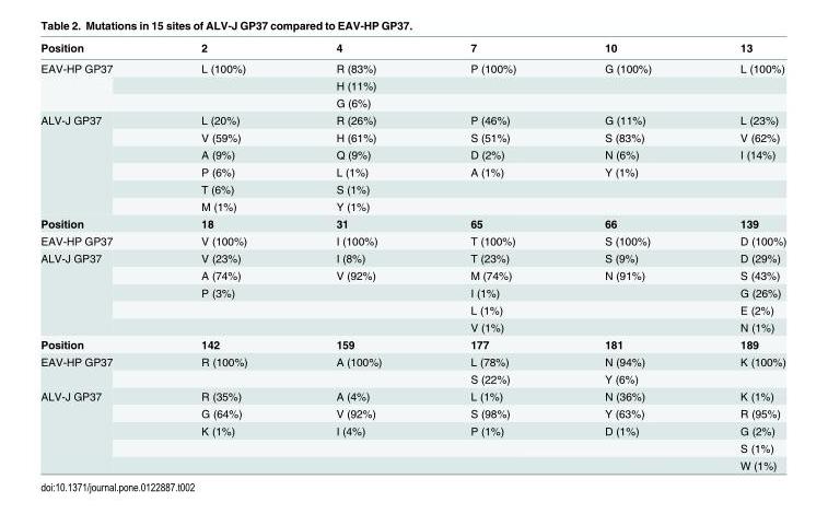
<table><thead><tr><td>Position</td><td>2</td><td>4</td><td>7</td><td>10</td><td>13</td></tr></thead><tbody><tr><td rowspan="3">EAV-HP GP37</td><td>L (100%)</td><td>R (83%)</td><td>P (100%)</td><td>G (100%)</td><td>L (100%)</td></tr><tr><td></td><td>H (11%)</td><td></td><td></td><td></td></tr><tr><td></td><td>G (6%)</td><td></td><td></td><td></td></tr><tr><td rowspan="6">ALV-J GP37</td><td>L (20%)</td><td>R (26%)</td><td>P (46%)</td><td>G (11%)</td><td>L (23%)</td></tr><tr><td>V (59%)</td><td>H (61%)</td><td>S (51%)</td><td>S (83%)</td><td>V (62%)</td></tr><tr><td>A (9%)</td><td>Q (9%)</td><td>D (2%)</td><td>N (6%)</td><td>I (14%)</td></tr><tr><td>P (6%)</td><td>L (1%)</td><td>A (1%)</td><td>Y (1%)</td><td></td></tr><tr><td>T (6%)</td><td>S (1%)</td><td></td><td></td><td></td></tr><tr><td>M (1%)</td><td>Y (1%)</td><td></td><td></td><td></td></tr><tr><td>Position</td><td>18</td><td>31</td><td>65</td><td>66</td><td>139</td></tr><tr><td>EAV-HP GP37</td><td>V (100%)</td><td>I (100%)</td><td>T (100%)</td><td>S (100%)</td><td>D (100%)</td></tr><tr><td rowspan="5">ALV-J GP37</td><td>V (23%)</td><td>I (8%)</td><td>T (23%)</td><td>S (9%)</td><td>D (29%)</td></tr><tr><td>A (74%)</td><td>V (92%)</td><td>M (74%)</td><td>N (91%)</td><td>S (43%)</td></tr><tr><td>P (3%)</td><td></td><td>I (1%)</td><td></td><td>G (26%)</td></tr><tr><td></td><td></td><td>L (1%)</td><td></td><td>E (2%)</td></tr><tr><td></td><td></td><td>V (1%)</td><td></td><td>N (1%)</td></tr><tr><td>Position</td><td>142</td><td>159</td><td>177</td><td>181</td><td>189</td></tr><tr><td rowspan="2">EAV-HP GP37</td><td>R (100%)</td><td>A (100%)</td><td>L (78%)</td><td>N (94%)</td><td>K (100%)</td></tr><tr><td></td><td></td><td>S (22%)</td><td>Y (6%)</td><td></td></tr><tr><td rowspan="5">ALV-J GP37</td><td>R (35%)</td><td>A (4%)</td><td>L (1%)</td><td>N (36%)</td><td>K (1%)</td></tr><tr><td>G (64%)</td><td>V (92%)</td><td>S (98%)</td><td>Y (63%)</td><td>R (95%)</td></tr><tr><td>K (1%)</td><td>I (4%)</td><td>P (1%)</td><td>D (1%)</td><td>G (2%)</td></tr><tr><td></td><td></td><td></td><td></td><td>S (1%)</td></tr><tr><td></td><td></td><td></td><td></td><td>W (1%)</td></tr></tbody></table>